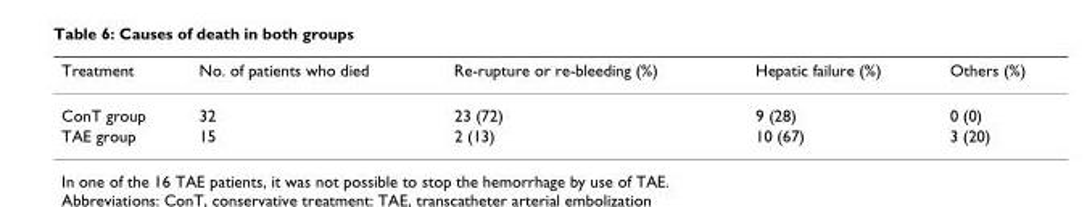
<table><thead><tr><td>Treatment</td><td>No. of patients who died</td><td>Re-rupture or re-bleeding (%)</td><td>Hepatic failure (%)</td><td>Others (%)</td></tr></thead><tbody><tr><td>ConT group</td><td>32</td><td>23 (72)</td><td>9 (28)</td><td>0 (0)</td></tr><tr><td>TAE group</td><td>15</td><td>2 (13)</td><td>10 (67)</td><td>3 (20)</td></tr></tbody></table>